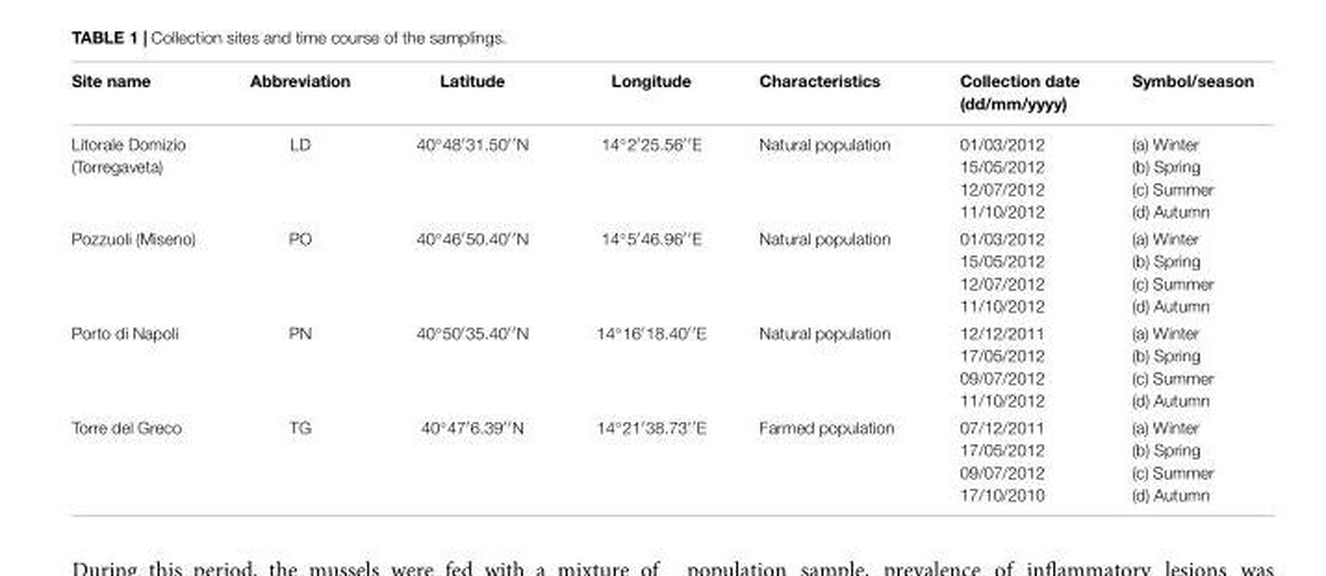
<table><thead><tr><td>Site name</td><td>Abbreviation</td><td>Latitude</td><td>Longitude</td><td>Characteristics</td><td>Collection date (dd/mm/yyyy)</td><td>Symbol/season</td></tr></thead><tbody><tr><td>Litorale Domizio (Torregaveta)</td><td>LD</td><td>40◦48′31.50′′N</td><td>14◦2′25.56′′E</td><td>Natural population</td><td>01/03/2012 15/05/2012 12/07/2012 11/10/2012</td><td>(a) Winter (b) Spring (c) Summer (d) Autumn</td></tr><tr><td>Pozzuoli (Miseno)</td><td>PO</td><td>40◦46′50.40′′N</td><td>14◦5′46.96′′E</td><td>Natural population</td><td>01/03/2012 15/05/2012 12/07/2012 11/10/2012</td><td>(a) Winter (b) Spring (c) Summer (d) Autumn</td></tr><tr><td>Porto di Napoli</td><td>PN</td><td>40◦50′35.40′′N</td><td>14◦16′18.40′′E</td><td>Natural population</td><td>12/12/2011 17/05/2012 09/07/2012 11/10/2012</td><td>(a) Winter (b) Spring (c) Summer (d) Autumn</td></tr><tr><td>Torre del Greco</td><td>TG</td><td>40◦47′6.39′′N</td><td>14◦21′38.73′′E</td><td>Farmed population</td><td>07/12/2011 17/05/2012 09/07/2012 17/10/2010</td><td>(a) Winter (b) Spring (c) Summer (d) Autumn</td></tr></tbody></table>